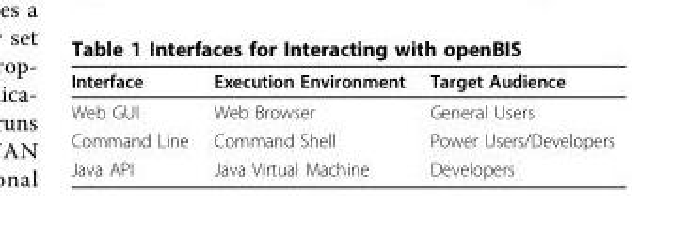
<table><thead><tr><td>Interface</td><td>Execution Environment</td><td>Target Audience</td></tr></thead><tbody><tr><td>Web GUI</td><td>Web Browser</td><td>General Users</td></tr><tr><td>Command Line</td><td>Command Shell</td><td>Power Users/Developers</td></tr><tr><td>Java API</td><td>Java Virtual Machine</td><td>Developers</td></tr></tbody></table>